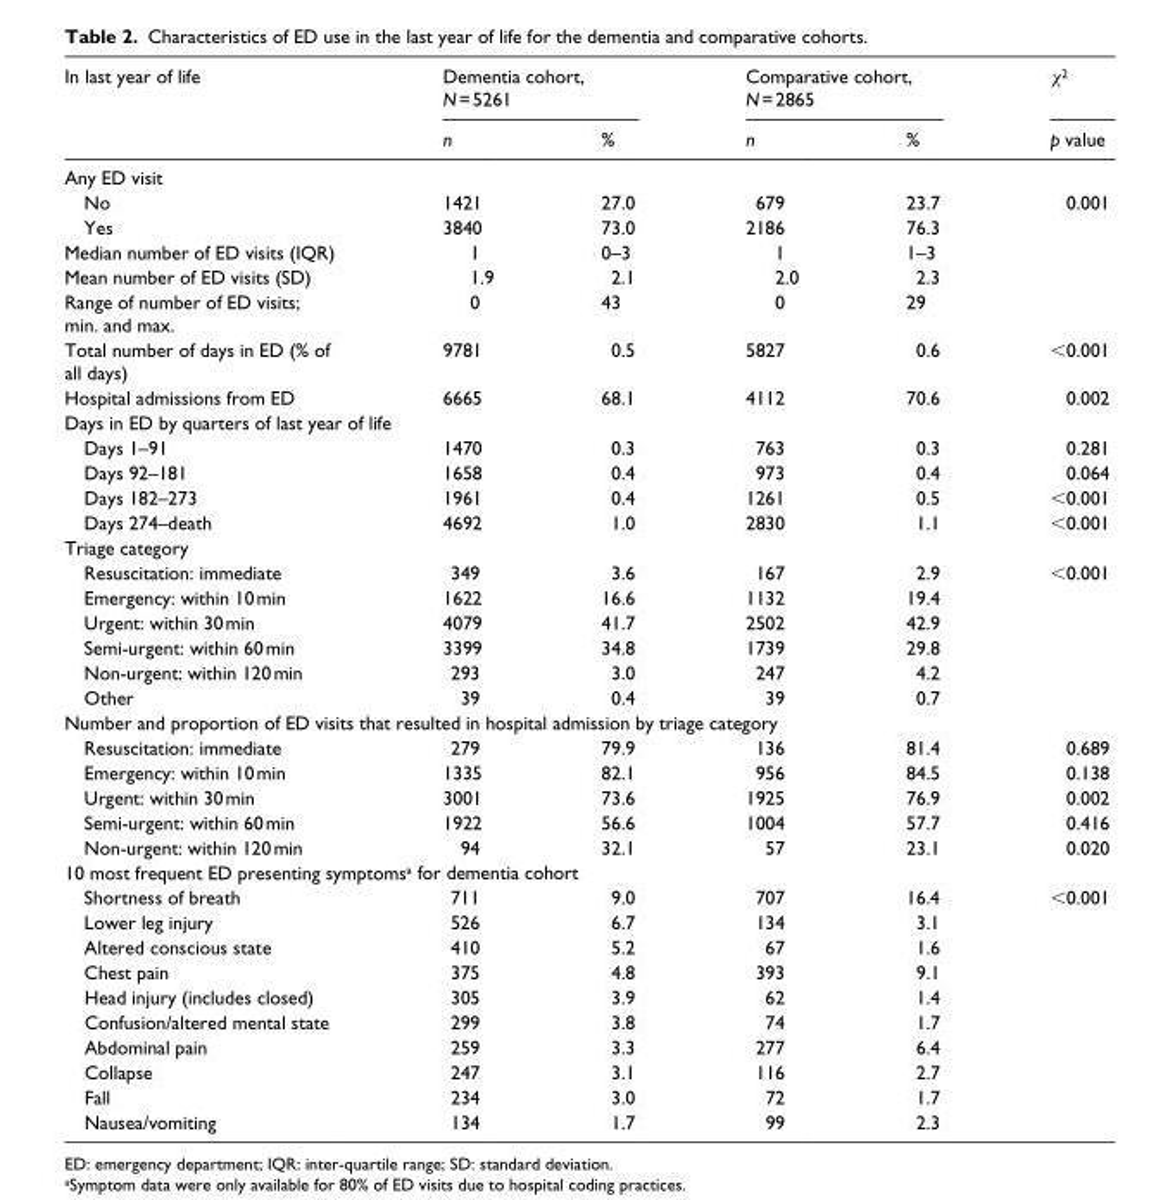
<table><thead><tr><td rowspan="2">In last year of life</td><td colspan="2">Dementia cohort, N = 5261</td><td colspan="2">Comparative cohort, N = 2865</td><td rowspan="2">χ<sup>2</sup> p value</td></tr><tr><td>n</td><td>%</td><td>n</td><td>%</td></tr></thead><tbody><tr><td colspan="6">Any ED visit</td></tr><tr><td>No</td><td>1421</td><td>27.0</td><td>679</td><td>23.7</td><td>0.001</td></tr><tr><td>Yes</td><td>3840</td><td>73.0</td><td>2186</td><td>76.3</td><td></td></tr><tr><td>Median number of ED visits (IQR)</td><td>1</td><td>0–3</td><td>1</td><td>1–3</td><td></td></tr><tr><td>Mean number of ED visits (SD)</td><td>1.9</td><td>2.1</td><td>2.0</td><td>2.3</td><td></td></tr><tr><td>Range of number of ED visits; min. and max.</td><td>0</td><td>43</td><td>0</td><td>29</td><td></td></tr><tr><td>Total number of days in ED (% of all days)</td><td>9781</td><td>0.5</td><td>5827</td><td>0.6</td><td>&lt;0.001</td></tr><tr><td>Hospital admissions from ED</td><td>6665</td><td>68.1</td><td>4112</td><td>70.6</td><td>0.002</td></tr><tr><td colspan="6">Days in ED by quarters of last year of life</td></tr><tr><td>Days 1–91</td><td>1470</td><td>0.3</td><td>763</td><td>0.3</td><td>0.281</td></tr><tr><td>Days 92–181</td><td>1658</td><td>0.4</td><td>973</td><td>0.4</td><td>0.064</td></tr><tr><td>Days 182–273</td><td>1961</td><td>0.4</td><td>1261</td><td>0.5</td><td>&lt;0.001</td></tr><tr><td>Days 274–death</td><td>4692</td><td>1.0</td><td>2830</td><td>1.1</td><td>&lt;0.001</td></tr><tr><td colspan="6">Triage category</td></tr><tr><td>Resuscitation: immediate</td><td>349</td><td>3.6</td><td>167</td><td>2.9</td><td>&lt;0.001</td></tr><tr><td>Emergency: within 10 min</td><td>1622</td><td>16.6</td><td>1132</td><td>19.4</td><td></td></tr><tr><td>Urgent: within 30 min</td><td>4079</td><td>41.7</td><td>2502</td><td>42.9</td><td></td></tr><tr><td>Semi-urgent: within 60 min</td><td>3399</td><td>34.8</td><td>1739</td><td>29.8</td><td></td></tr><tr><td>Non-urgent: within 120 min</td><td>293</td><td>3.0</td><td>247</td><td>4.2</td><td></td></tr><tr><td>Other</td><td>39</td><td>0.4</td><td>39</td><td>0.7</td><td></td></tr><tr><td colspan="6">Number and proportion of ED visits that resulted in hospital admission by triage category</td></tr><tr><td>Resuscitation: immediate</td><td>279</td><td>79.9</td><td>136</td><td>81.4</td><td>0.689</td></tr><tr><td>Emergency: within 10 min</td><td>1335</td><td>82.1</td><td>956</td><td>84.5</td><td>0.138</td></tr><tr><td>Urgent: within 30 min</td><td>3001</td><td>73.6</td><td>1925</td><td>76.9</td><td>0.002</td></tr><tr><td>Semi-urgent: within 60 min</td><td>1922</td><td>56.6</td><td>1004</td><td>57.7</td><td>0.416</td></tr><tr><td>Non-urgent: within 120 min</td><td>94</td><td>32.1</td><td>57</td><td>23.1</td><td>0.020</td></tr><tr><td colspan="6">10 most frequent ED presenting symptoms<sup>a</sup> for dementia cohort</td></tr><tr><td>Shortness of breath</td><td>711</td><td>9.0</td><td>707</td><td>16.4</td><td>&lt;0.001</td></tr><tr><td>Lower leg injury</td><td>526</td><td>6.7</td><td>134</td><td>3.1</td><td></td></tr><tr><td>Altered conscious state</td><td>410</td><td>5.2</td><td>67</td><td>1.6</td><td></td></tr><tr><td>Chest pain</td><td>375</td><td>4.8</td><td>393</td><td>9.1</td><td></td></tr><tr><td>Head injury (includes closed)</td><td>305</td><td>3.9</td><td>62</td><td>1.4</td><td></td></tr><tr><td>Confusion/altered mental state</td><td>299</td><td>3.8</td><td>74</td><td>1.7</td><td></td></tr><tr><td>Abdominal pain</td><td>259</td><td>3.3</td><td>277</td><td>6.4</td><td></td></tr><tr><td>Collapse</td><td>247</td><td>3.1</td><td>116</td><td>2.7</td><td></td></tr><tr><td>Fall</td><td>234</td><td>3.0</td><td>72</td><td>1.7</td><td></td></tr><tr><td>Nausea/vomiting</td><td>134</td><td>1.7</td><td>99</td><td>2.3</td><td></td></tr></tbody></table>